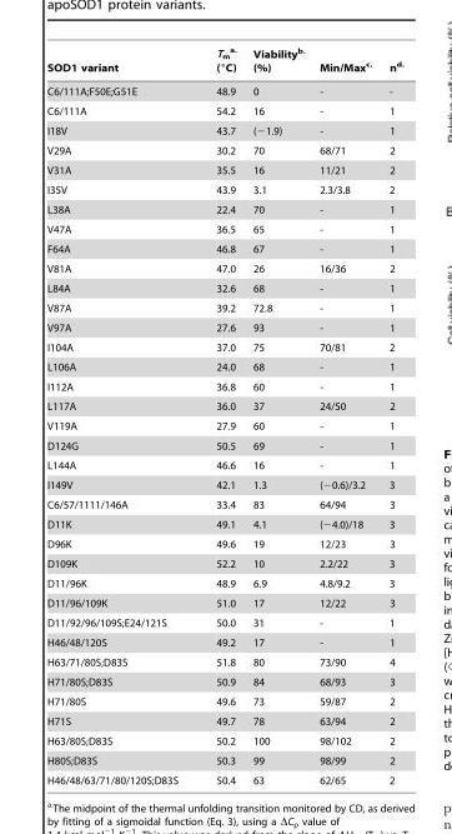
<table><thead><tr><td>SOD1 variant</td><td>T<sub>m</sub> a. (°C)</td><td>Viabilityb. (%)</td><td>Min/Maxc.</td><td>nd.</td></tr></thead><tbody><tr><td>C6/111A;F50E;G51E</td><td>48.9</td><td>0</td><td>-</td><td>-</td></tr><tr><td>C6/111A</td><td>54.2</td><td>16</td><td>-</td><td>1</td></tr><tr><td>I18V</td><td>43.7</td><td>(−1.9)</td><td>-</td><td>1</td></tr><tr><td>V29A</td><td>30.2</td><td>70</td><td>68/71</td><td>2</td></tr><tr><td>V31A</td><td>35.5</td><td>16</td><td>11/21</td><td>2</td></tr><tr><td>I35V</td><td>43.9</td><td>3.1</td><td>2.3/3.8</td><td>2</td></tr><tr><td>L38A</td><td>22.4</td><td>70</td><td>-</td><td>1</td></tr><tr><td>V47A</td><td>36.5</td><td>65</td><td>-</td><td>1</td></tr><tr><td>F64A</td><td>46.8</td><td>67</td><td>-</td><td>1</td></tr><tr><td>V81A</td><td>47.0</td><td>26</td><td>16/36</td><td>2</td></tr><tr><td>L84A</td><td>32.6</td><td>68</td><td>-</td><td>1</td></tr><tr><td>V87A</td><td>39.2</td><td>72.8</td><td>-</td><td>1</td></tr><tr><td>V97A</td><td>27.6</td><td>93</td><td>-</td><td>1</td></tr><tr><td>I104A</td><td>37.0</td><td>75</td><td>70/81</td><td>2</td></tr><tr><td>L106A</td><td>24.0</td><td>68</td><td>-</td><td>1</td></tr><tr><td>I112A</td><td>36.8</td><td>60</td><td>-</td><td>1</td></tr><tr><td>L117A</td><td>36.0</td><td>37</td><td>24/50</td><td>2</td></tr><tr><td>V119A</td><td>27.9</td><td>60</td><td>-</td><td>1</td></tr><tr><td>D124G</td><td>50.5</td><td>69</td><td>-</td><td>1</td></tr><tr><td>L144A</td><td>46.6</td><td>16</td><td>-</td><td>1</td></tr><tr><td>I149V</td><td>42.1</td><td>1.3</td><td>(−0.6)/3.2</td><td>3</td></tr><tr><td>C6/57/1111/146A</td><td>33.4</td><td>83</td><td>64/94</td><td>3</td></tr><tr><td>D11K</td><td>49.1</td><td>4.1</td><td>(−4.0)/18</td><td>3</td></tr><tr><td>D96K</td><td>49.6</td><td>19</td><td>12/23</td><td>3</td></tr><tr><td>D109K</td><td>52.2</td><td>10</td><td>2.2/22</td><td>3</td></tr><tr><td>D11/96K</td><td>48.9</td><td>6.9</td><td>4.8/9.2</td><td>3</td></tr><tr><td>D11/96/109K</td><td>51.0</td><td>17</td><td>12/22</td><td>3</td></tr><tr><td>D11/92/96/109S;E24/121S</td><td>50.0</td><td>31</td><td>-</td><td>1</td></tr><tr><td>H46/48/120S</td><td>49.2</td><td>17</td><td>-</td><td>1</td></tr><tr><td>H63/71/80S;D83S</td><td>51.8</td><td>80</td><td>73/90</td><td>4</td></tr><tr><td>H71/80S;D83S</td><td>50.9</td><td>84</td><td>68/93</td><td>3</td></tr><tr><td>H71/80S</td><td>49.6</td><td>73</td><td>59/87</td><td>2</td></tr><tr><td>H71S</td><td>49.7</td><td>78</td><td>63/94</td><td>2</td></tr><tr><td>H63/80S;D83S</td><td>50.2</td><td>100</td><td>98/102</td><td>2</td></tr><tr><td>H80S;D83S</td><td>50.3</td><td>99</td><td>98/99</td><td>2</td></tr><tr><td>H46/48/63/71/80/120S;D83S</td><td>50.4</td><td>63</td><td>62/65</td><td>2</td></tr></tbody></table>